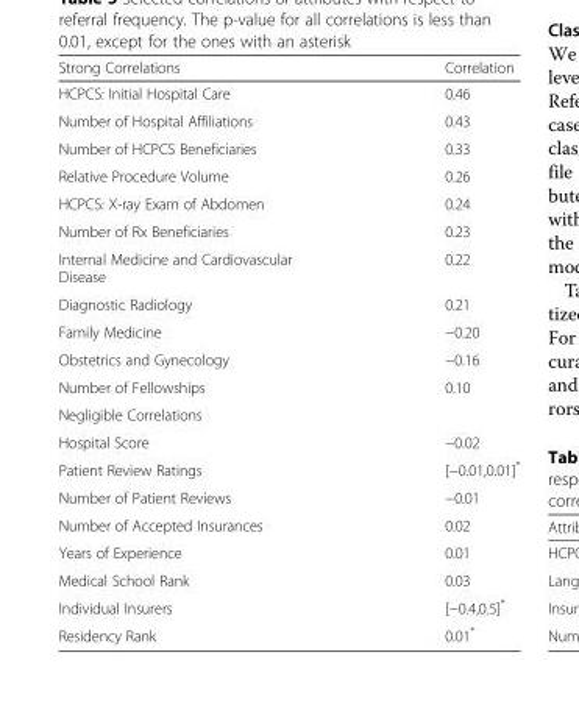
<table><thead><tr><td>Strong Correlations</td><td>Correlation</td></tr></thead><tbody><tr><td>HCPCS: Initial Hospital Care</td><td>0.46</td></tr><tr><td>Number of Hospital Affiliations</td><td>0.43</td></tr><tr><td>Number of HCPCS Beneficiaries</td><td>0.33</td></tr><tr><td>Relative Procedure Volume</td><td>0.26</td></tr><tr><td>HCPCS: X-ray Exam of Abdomen</td><td>0.24</td></tr><tr><td>Number of Rx Beneficiaries</td><td>0.23</td></tr><tr><td>Internal Medicine and Cardiovascular Disease</td><td>0.22</td></tr><tr><td>Diagnostic Radiology</td><td>0.21</td></tr><tr><td>Family Medicine</td><td>−0.20</td></tr><tr><td>Obstetrics and Gynecology</td><td>−0.16</td></tr><tr><td>Number of Fellowships</td><td>0.10</td></tr><tr><td colspan="2">Negligible Correlations</td></tr><tr><td>Hospital Score</td><td>−0.02</td></tr><tr><td>Patient Review Ratings</td><td>[−0.01,0.01]*</td></tr><tr><td>Number of Patient Reviews</td><td>−0.01</td></tr><tr><td>Number of Accepted Insurances</td><td>0.02</td></tr><tr><td>Years of Experience</td><td>0.01</td></tr><tr><td>Medical School Rank</td><td>0.03</td></tr><tr><td>Individual Insurers</td><td>[−0.4,0.5]*</td></tr><tr><td>Residency Rank</td><td>0.01*</td></tr></tbody></table>